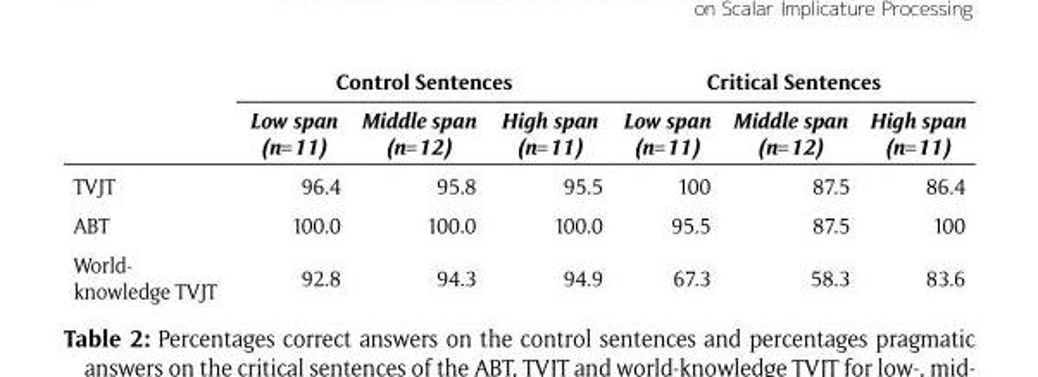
<table><thead><tr><td rowspan="2"></td><td colspan="3">Control Sentences</td><td colspan="3">Critical Sentences</td></tr><tr><td>Low span (n=11)</td><td>Middle span (n=12)</td><td>High span (n=11)</td><td>Low span (n=11)</td><td>Middle span (n=12)</td><td>High span (n=11)</td></tr></thead><tbody><tr><td>TVJT</td><td>96.4</td><td>95.8</td><td>95.5</td><td>100</td><td>87.5</td><td>86.4</td></tr><tr><td>ABT</td><td>100.0</td><td>100.0</td><td>100.0</td><td>95.5</td><td>87.5</td><td>100</td></tr><tr><td>World- knowledge TVJT</td><td>92.8</td><td>94.3</td><td>94.9</td><td>67.3</td><td>58.3</td><td>83.6</td></tr></tbody></table>